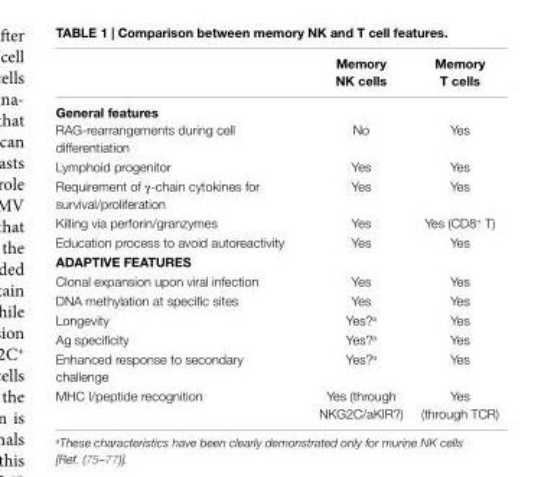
<table><thead><tr><td></td><td>Memory nK cells</td><td>Memory T cells</td></tr></thead><tbody><tr><td colspan="3">General features</td></tr><tr><td>RAG-rearrangements during cell differentiation</td><td>No</td><td>Yes</td></tr><tr><td>Lymphoid progenitor</td><td>Yes</td><td>Yes</td></tr><tr><td>Requirement of γ-chain cytokines for survival/proliferation</td><td>Yes</td><td>Yes</td></tr><tr><td>Killing via perforin/granzymes</td><td>Yes</td><td>Yes (CD8<sup>+</sup> T)</td></tr><tr><td>Education process to avoid autoreactivity</td><td>Yes</td><td>Yes</td></tr><tr><td colspan="3">ADAPTive FeATUReS</td></tr><tr><td>Clonal expansion upon viral infection</td><td>Yes</td><td>Yes</td></tr><tr><td>DNA methylation at specific sites</td><td>Yes</td><td>Yes</td></tr><tr><td>Longevity</td><td>Yes?<sup>a</sup></td><td>Yes</td></tr><tr><td>Ag specificity</td><td>Yes?<sup>a</sup></td><td>Yes</td></tr><tr><td>Enhanced response to secondary challenge</td><td>Yes?<sup>a</sup></td><td>Yes</td></tr><tr><td>MHC I/peptide recognition</td><td>Yes (through NKG2C/aKIR?)</td><td>Yes (through TCR)</td></tr></tbody></table>